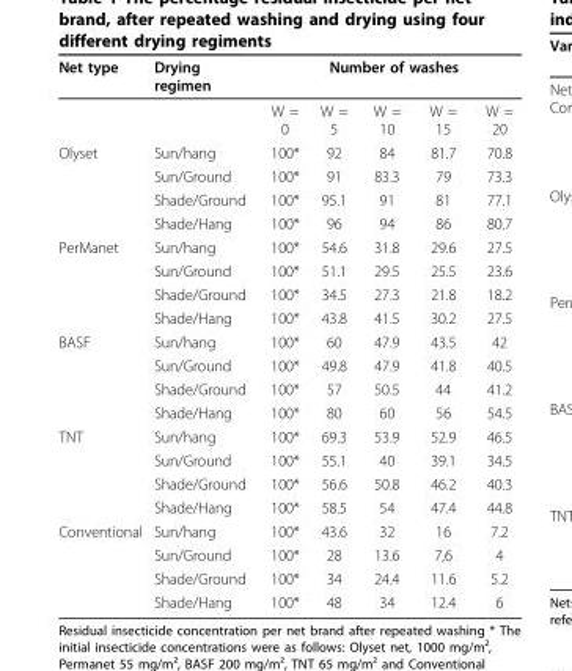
<table><thead><tr><td rowspan="2">Net type</td><td rowspan="2">Drying regimen</td><td colspan="5">Number of washes</td></tr><tr><td>W = 0</td><td>W = 5</td><td>W = 10</td><td>W = 15</td><td>W = 20</td></tr></thead><tbody><tr><td rowspan="4">Olyset</td><td>Sun/hang</td><td>100*</td><td>92</td><td>84</td><td>81.7</td><td>70.8</td></tr><tr><td>Sun/Ground</td><td>100*</td><td>91</td><td>83.3</td><td>79</td><td>73.3</td></tr><tr><td>Shade/Ground</td><td>100*</td><td>95.1</td><td>91</td><td>81</td><td>77.1</td></tr><tr><td>Shade/Hang</td><td>100*</td><td>96</td><td>94</td><td>86</td><td>80.7</td></tr><tr><td rowspan="4">PerManet</td><td>Sun/hang</td><td>100*</td><td>54.6</td><td>31.8</td><td>29.6</td><td>27.5</td></tr><tr><td>Sun/Ground</td><td>100*</td><td>51.1</td><td>29.5</td><td>25.5</td><td>23.6</td></tr><tr><td>Shade/Ground</td><td>100*</td><td>34.5</td><td>27.3</td><td>21.8</td><td>18.2</td></tr><tr><td>Shade/Hang</td><td>100*</td><td>43.8</td><td>41.5</td><td>30.2</td><td>27.5</td></tr><tr><td rowspan="4">BASF</td><td>Sun/hang</td><td>100*</td><td>60</td><td>47.9</td><td>43.5</td><td>42</td></tr><tr><td>Sun/Ground</td><td>100*</td><td>49.8</td><td>47.9</td><td>41.8</td><td>40.5</td></tr><tr><td>Shade/Ground</td><td>100*</td><td>57</td><td>50.5</td><td>44</td><td>41.2</td></tr><tr><td>Shade/Hang</td><td>100*</td><td>80</td><td>60</td><td>56</td><td>54.5</td></tr><tr><td rowspan="4">TNT</td><td>Sun/hang</td><td>100*</td><td>69.3</td><td>53.9</td><td>52.9</td><td>46.5</td></tr><tr><td>Sun/Ground</td><td>100*</td><td>55.1</td><td>40</td><td>39.1</td><td>34.5</td></tr><tr><td>Shade/Ground</td><td>100*</td><td>56.6</td><td>50.8</td><td>46.2</td><td>40.3</td></tr><tr><td>Shade/Hang</td><td>100*</td><td>58.5</td><td>54</td><td>47.4</td><td>44.8</td></tr><tr><td rowspan="4">Conventional</td><td>Sun/hang</td><td>100*</td><td>43.6</td><td>32</td><td>16</td><td>7.2</td></tr><tr><td>Sun/Ground</td><td>100*</td><td>28</td><td>13.6</td><td>7,6</td><td>4</td></tr><tr><td>Shade/Ground</td><td>100*</td><td>34</td><td>24.4</td><td>11.6</td><td>5.2</td></tr><tr><td>Shade/Hang</td><td>100*</td><td>48</td><td>34</td><td>12.4</td><td>6</td></tr></tbody></table>